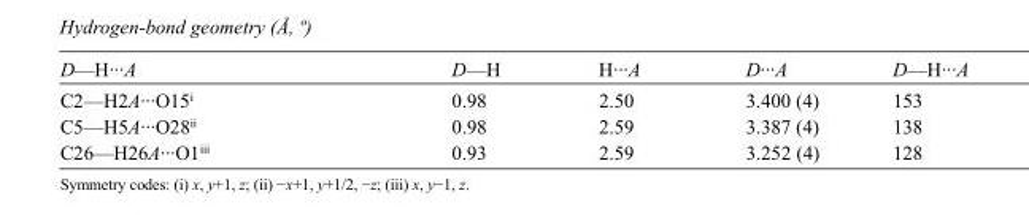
<table><tbody><tr><td>D—H···A</td><td>D—H</td><td>H···A</td><td>D···A</td><td>D—H···A</td></tr><tr><td>C2—H2A···O15<sup>i</sup></td><td>0.98</td><td>2.50</td><td>3.400 (4)</td><td>153</td></tr><tr><td>C5—H5A···O28<sup>ii</sup></td><td>0.98</td><td>2.59</td><td>3.387 (4)</td><td>138</td></tr><tr><td>C26—H26A···O1<sup>iii</sup></td><td>0.93</td><td>2.59</td><td>3.252 (4)</td><td>128</td></tr></tbody></table>